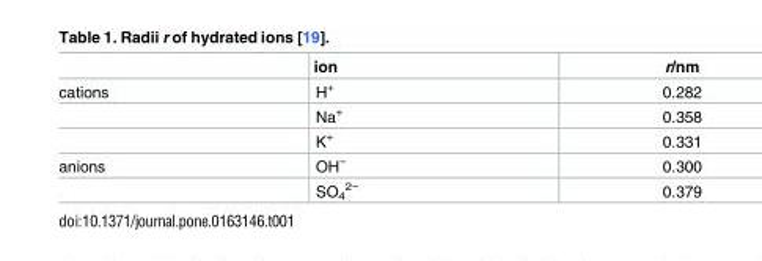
<table><thead><tr><td></td><td>ion</td><td>r/nm</td></tr></thead><tbody><tr><td rowspan="3">cations</td><td>H<sup>+</sup></td><td>0.282</td></tr><tr><td>Na<sup>+</sup></td><td>0.358</td></tr><tr><td>K<sup>+</sup></td><td>0.331</td></tr><tr><td rowspan="2">anions</td><td>OH<sup>−</sup></td><td>0.300</td></tr><tr><td>SO<sub>4</sub> <sup>2−</sup></td><td>0.379</td></tr></tbody></table>